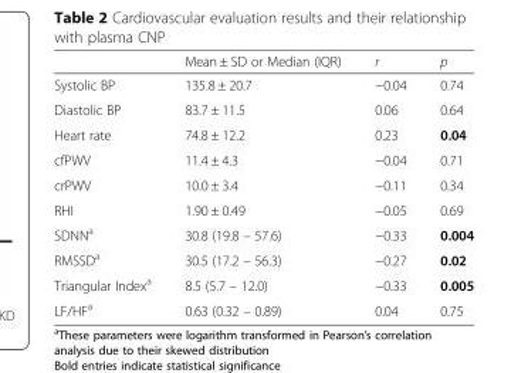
<table><thead><tr><td></td><td>Mean ± SD or Median (IQR)</td><td>r</td><td>p</td></tr></thead><tbody><tr><td>Systolic BP</td><td>135.8 ± 20.7</td><td>−0.04</td><td>0.74</td></tr><tr><td>Diastolic BP</td><td>83.7 ± 11.5</td><td>0.06</td><td>0.64</td></tr><tr><td>Heart rate</td><td>74.8 ± 12.2</td><td>0.23</td><td>0.04</td></tr><tr><td>cfPWV</td><td>11.4 ± 4.3</td><td>−0.04</td><td>0.71</td></tr><tr><td>crPWV</td><td>10.0 ± 3.4</td><td>−0.11</td><td>0.34</td></tr><tr><td>RHI</td><td>1.90 ± 0.49</td><td>−0.05</td><td>0.69</td></tr><tr><td>SDNN<sup>a</sup></td><td>30.8 (19.8 – 57.6)</td><td>−0.33</td><td>0.004</td></tr><tr><td>RMSSD<sup>a</sup></td><td>30.5 (17.2 – 56.3)</td><td>−0.27</td><td>0.02</td></tr><tr><td>Triangular Index<sup>a</sup></td><td>8.5 (5.7 – 12.0)</td><td>−0.33</td><td>0.005</td></tr><tr><td>LF/HF<sup>a</sup></td><td>0.63 (0.32 – 0.89)</td><td>0.04</td><td>0.75</td></tr></tbody></table>